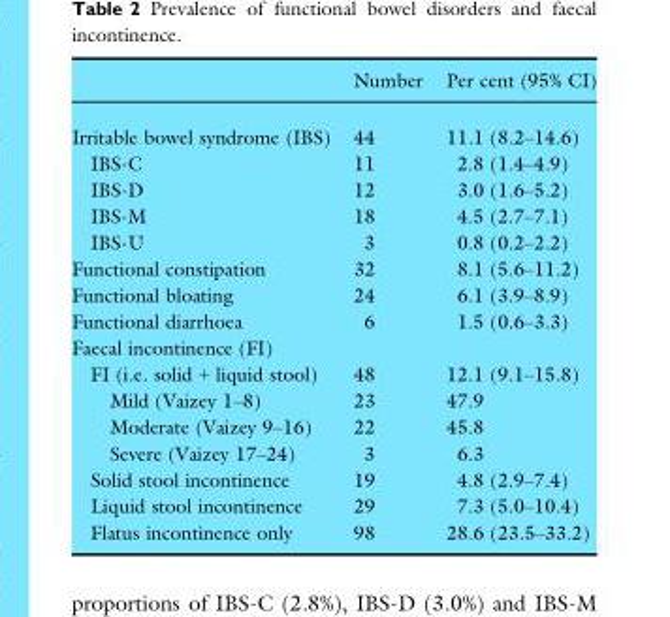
<table><thead><tr><td></td><td>Number</td><td>Per cent (95% CI)</td></tr></thead><tbody><tr><td>Irritable bowel syndrome (IBS)</td><td>44</td><td>11.1 (8.2–14.6)</td></tr><tr><td>IBS-C</td><td>11</td><td>2.8 (1.4–4.9)</td></tr><tr><td>IBS-D</td><td>12</td><td>3.0 (1.6–5.2)</td></tr><tr><td>IBS-M</td><td>18</td><td>4.5 (2.7–7.1)</td></tr><tr><td>IBS-U</td><td>3</td><td>0.8 (0.2–2.2)</td></tr><tr><td>Functional constipation</td><td>32</td><td>8.1 (5.6–11.2)</td></tr><tr><td>Functional bloating</td><td>24</td><td>6.1 (3.9–8.9)</td></tr><tr><td>Functional diarrhoea</td><td>6</td><td>1.5 (0.6–3.3)</td></tr><tr><td colspan="3">Faecal incontinence (FI)</td></tr><tr><td>FI (i.e. solid + liquid stool)</td><td>48</td><td>12.1 (9.1–15.8)</td></tr><tr><td>Mild (Vaizey 1–8)</td><td>23</td><td>47.9</td></tr><tr><td>Moderate (Vaizey 9–16)</td><td>22</td><td>45.8</td></tr><tr><td>Severe (Vaizey 17–24)</td><td>3</td><td>6.3</td></tr><tr><td>Solid stool incontinence</td><td>19</td><td>4.8 (2.9–7.4)</td></tr><tr><td>Liquid stool incontinence</td><td>29</td><td>7.3 (5.0–10.4)</td></tr><tr><td>Flatus incontinence only</td><td>98</td><td>28.6 (23.5–33.2)</td></tr></tbody></table>